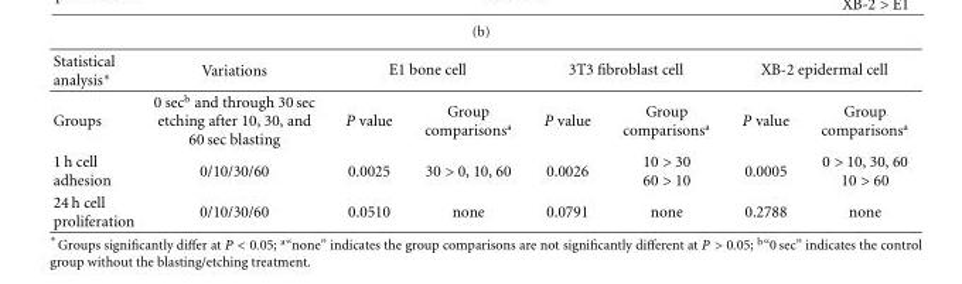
<table><tbody><tr><td>Statistical analysis∗</td><td>Variations</td><td colspan="2">E1 bone cell</td><td colspan="2">3T3 fibroblast cell</td><td colspan="2">XB-2 epidermal cell</td></tr><tr><td>Groups</td><td>0 sec<sup>b</sup> and through 30 sec etching after 10, 30, and 60 sec blasting</td><td>P value</td><td>Group comparisons<sup>a</sup></td><td>P value</td><td>Group comparisons<sup>a</sup></td><td>P value</td><td>Group comparisons<sup>a</sup></td></tr><tr><td>1 h cell adhesion</td><td>0/10/30/60</td><td>0.0025</td><td>30 &gt; 0, 10, 60</td><td>0.0026</td><td>10 &gt; 30 60 &gt; 10</td><td>0.0005</td><td>0 &gt; 10, 30, 60 10 &gt; 60</td></tr><tr><td>24 h cell proliferation</td><td>0/10/30/60</td><td>0.0510</td><td>none</td><td>0.0791</td><td>none</td><td>0.2788</td><td>none</td></tr></tbody></table>